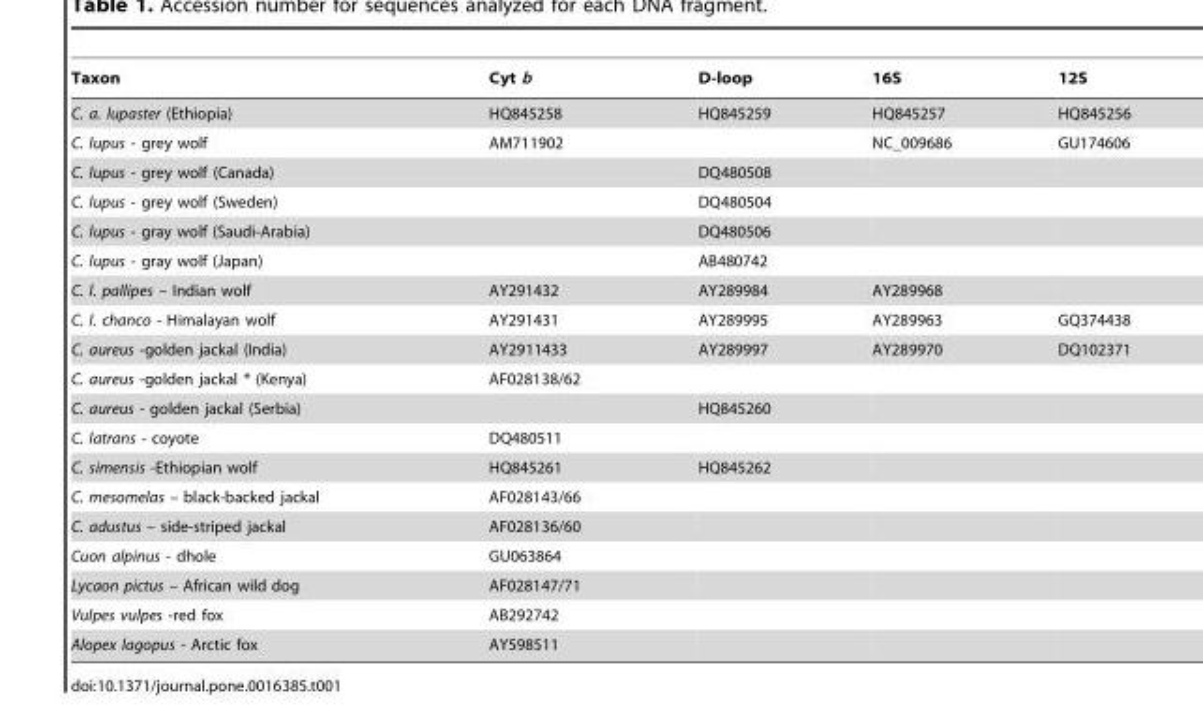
<table><thead><tr><td>Taxon</td><td>Cyt b</td><td>D-loop</td><td>16S</td><td>12S</td></tr></thead><tbody><tr><td>C. a. lupaster (Ethiopia)</td><td>HQ845258</td><td>HQ845259</td><td>HQ845257</td><td>HQ845256</td></tr><tr><td>C. lupus - grey wolf</td><td>AM711902</td><td></td><td>NC_009686</td><td>GU174606</td></tr><tr><td>C. lupus - grey wolf (Canada)</td><td></td><td>DQ480508</td><td></td><td></td></tr><tr><td>C. lupus - grey wolf (Sweden)</td><td></td><td>DQ480504</td><td></td><td></td></tr><tr><td>C. lupus - gray wolf (Saudi-Arabia)</td><td></td><td>DQ480506</td><td></td><td></td></tr><tr><td>C. lupus - gray wolf (Japan)</td><td></td><td>AB480742</td><td></td><td></td></tr><tr><td>C. l. pallipes – Indian wolf</td><td>AY291432</td><td>AY289984</td><td>AY289968</td><td></td></tr><tr><td>C. l. chanco - Himalayan wolf</td><td>AY291431</td><td>AY289995</td><td>AY289963</td><td>GQ374438</td></tr><tr><td>C. aureus -golden jackal (India)</td><td>AY2911433</td><td>AY289997</td><td>AY289970</td><td>DQ102371</td></tr><tr><td>C. aureus -golden jackal * (Kenya)</td><td>AF028138/62</td><td></td><td></td><td></td></tr><tr><td>C. aureus - golden jackal (Serbia)</td><td></td><td>HQ845260</td><td></td><td></td></tr><tr><td>C. latrans - coyote</td><td>DQ480511</td><td></td><td></td><td></td></tr><tr><td>C. simensis -Ethiopian wolf</td><td>HQ845261</td><td>HQ845262</td><td></td><td></td></tr><tr><td>C. mesomelas – black-backed jackal</td><td>AF028143/66</td><td></td><td></td><td></td></tr><tr><td>C. adustus – side-striped jackal</td><td>AF028136/60</td><td></td><td></td><td></td></tr><tr><td>Cuon alpinus - dhole</td><td>GU063864</td><td></td><td></td><td></td></tr><tr><td>Lycaon pictus – African wild dog</td><td>AF028147/71</td><td></td><td></td><td></td></tr><tr><td>Vulpes vulpes -red fox</td><td>AB292742</td><td></td><td></td><td></td></tr><tr><td>Alopex lagopus - Arctic fox</td><td>AY598511</td><td></td><td></td><td></td></tr></tbody></table>